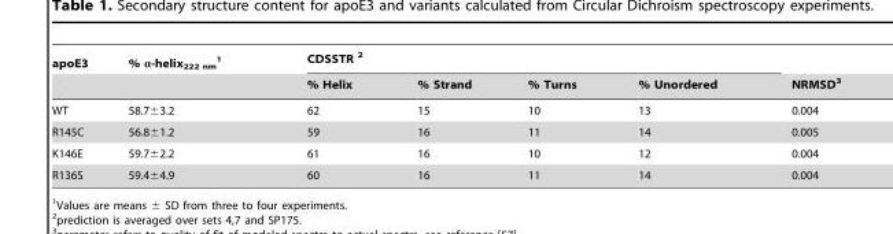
<table><thead><tr><td rowspan="2">apoE3</td><td rowspan="2">% α-helix<sub>222 nm</sub> 1</td><td colspan="4">CDSSTR 2</td><td rowspan="2">NRMSD<sup>3</sup></td></tr><tr><td>% Helix</td><td>% Strand</td><td>% Turns</td><td>% Unordered</td></tr></thead><tbody><tr><td>WT</td><td>58.7±3.2</td><td>62</td><td>15</td><td>10</td><td>13</td><td>0.004</td></tr><tr><td>R145C</td><td>56.8±1.2</td><td>59</td><td>16</td><td>11</td><td>14</td><td>0.005</td></tr><tr><td>K146E</td><td>59.7±2.2</td><td>61</td><td>16</td><td>10</td><td>12</td><td>0.004</td></tr><tr><td>R136S</td><td>59.4±4.9</td><td>60</td><td>16</td><td>11</td><td>14</td><td>0.004</td></tr></tbody></table>